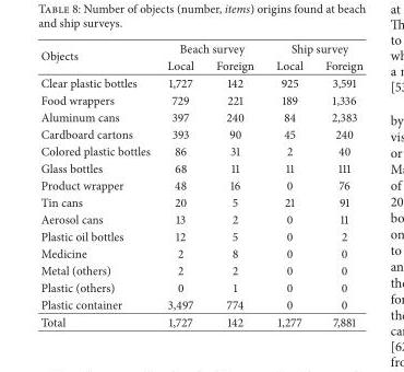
<table><thead><tr><td rowspan="2">Objects</td><td colspan="2">Beach survey</td><td colspan="2">Ship survey</td></tr><tr><td>Local</td><td>Foreign</td><td>Local</td><td>Foreign</td></tr></thead><tbody><tr><td>Clear plastic bottles</td><td>1,727</td><td>142</td><td>925</td><td>3,591</td></tr><tr><td>Food wrappers</td><td>729</td><td>221</td><td>189</td><td>1,336</td></tr><tr><td>Aluminum cans</td><td>397</td><td>240</td><td>84</td><td>2,383</td></tr><tr><td>Cardboard cartons</td><td>393</td><td>90</td><td>45</td><td>240</td></tr><tr><td>Colored plastic bottles</td><td>86</td><td>31</td><td>2</td><td>40</td></tr><tr><td>Glass bottles</td><td>68</td><td>11</td><td>11</td><td>111</td></tr><tr><td>Product wrapper</td><td>48</td><td>16</td><td>0</td><td>76</td></tr><tr><td>Tin cans</td><td>20</td><td>5</td><td>21</td><td>91</td></tr><tr><td>Aerosol cans</td><td>13</td><td>2</td><td>0</td><td>11</td></tr><tr><td>Plastic oil bottles</td><td>12</td><td>5</td><td>0</td><td>2</td></tr><tr><td>Medicine</td><td>2</td><td>8</td><td>0</td><td>0</td></tr><tr><td>Metal (others)</td><td>2</td><td>2</td><td>0</td><td>0</td></tr><tr><td>Plastic (others)</td><td>0</td><td>1</td><td>0</td><td>0</td></tr><tr><td>Plastic container</td><td>3,497</td><td>774</td><td>0</td><td>0</td></tr><tr><td>Total</td><td>1,727</td><td>142</td><td>1,277</td><td>7,881</td></tr></tbody></table>